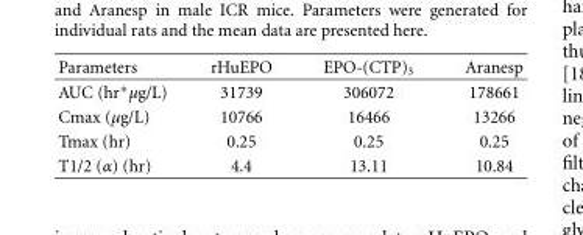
<table><thead><tr><td>Parameters</td><td>rHuEPO</td><td>EPO-(CTP)<sub>3</sub></td><td>Aranesp</td></tr></thead><tbody><tr><td>AUC (hr∗μg/L)</td><td>31739</td><td>306072</td><td>178661</td></tr><tr><td>Cmax (μg/L)</td><td>10766</td><td>16466</td><td>13266</td></tr><tr><td>Tmax (hr)</td><td>0.25</td><td>0.25</td><td>0.25</td></tr><tr><td>T1/2 (α) (hr)</td><td>4.4</td><td>13.11</td><td>10.84</td></tr></tbody></table>